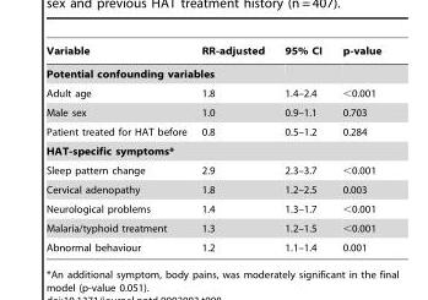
<table><thead><tr><td>Variable</td><td>RR-adjusted</td><td>95% CI</td><td>p-value</td></tr></thead><tbody><tr><td colspan="4">Potential confounding variables</td></tr><tr><td>Adult age</td><td>1.8</td><td>1.4–2.4</td><td>&lt;0.001</td></tr><tr><td>Male sex</td><td>1.0</td><td>0.9–1.1</td><td>0.703</td></tr><tr><td>Patient treated for HAT before</td><td>0.8</td><td>0.5–1.2</td><td>0.284</td></tr><tr><td colspan="4">HAT-specific symptoms*</td></tr><tr><td>Sleep pattern change</td><td>2.9</td><td>2.3–3.7</td><td>&lt;0.001</td></tr><tr><td>Cervical adenopathy</td><td>1.8</td><td>1.2–2.5</td><td>0.003</td></tr><tr><td>Neurological problems</td><td>1.4</td><td>1.3–1.7</td><td>&lt;0.001</td></tr><tr><td>Malaria/typhoid treatment</td><td>1.3</td><td>1.2–1.5</td><td>&lt;0.001</td></tr><tr><td>Abnormal behaviour</td><td>1.2</td><td>1.1–1.4</td><td>0.001</td></tr></tbody></table>